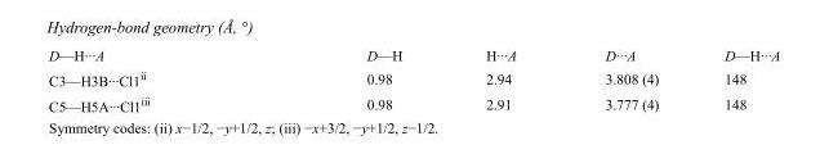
<table><tbody><tr><td>D—H···A</td><td>D—H</td><td>H···A</td><td>D···A</td><td>D—H···A</td></tr><tr><td>C3—H3B···Cl1<sup>ii</sup></td><td>0.98</td><td>2.94</td><td>3.808 (4)</td><td>148</td></tr><tr><td>C5—H5A···Cl1<sup>iii</sup></td><td>0.98</td><td>2.91</td><td>3.777 (4)</td><td>148</td></tr></tbody></table>